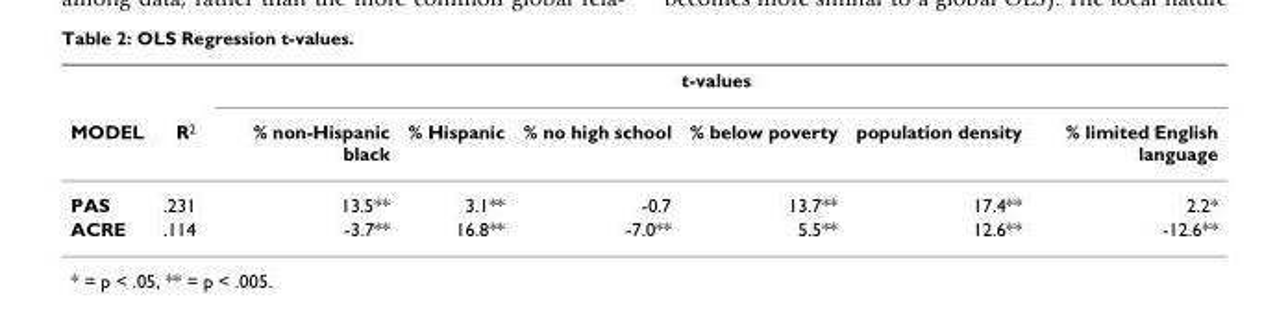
<table><thead><tr><td rowspan="2">MODEL</td><td rowspan="2">R<sup>2</sup></td><td colspan="6">t-values</td></tr><tr><td>% non-Hispanic black</td><td>% Hispanic</td><td>% no high school</td><td>% below poverty</td><td>population density</td><td>% limited English language</td></tr></thead><tbody><tr><td>PAS</td><td>.231</td><td>13.5**</td><td>3.1**</td><td>-0.7</td><td>13.7**</td><td>17.4**</td><td>2.2*</td></tr><tr><td>ACRE</td><td>.114</td><td>-3.7**</td><td>16.8**</td><td>-7.0**</td><td>5.5**</td><td>12.6**</td><td>-12.6**</td></tr></tbody></table>